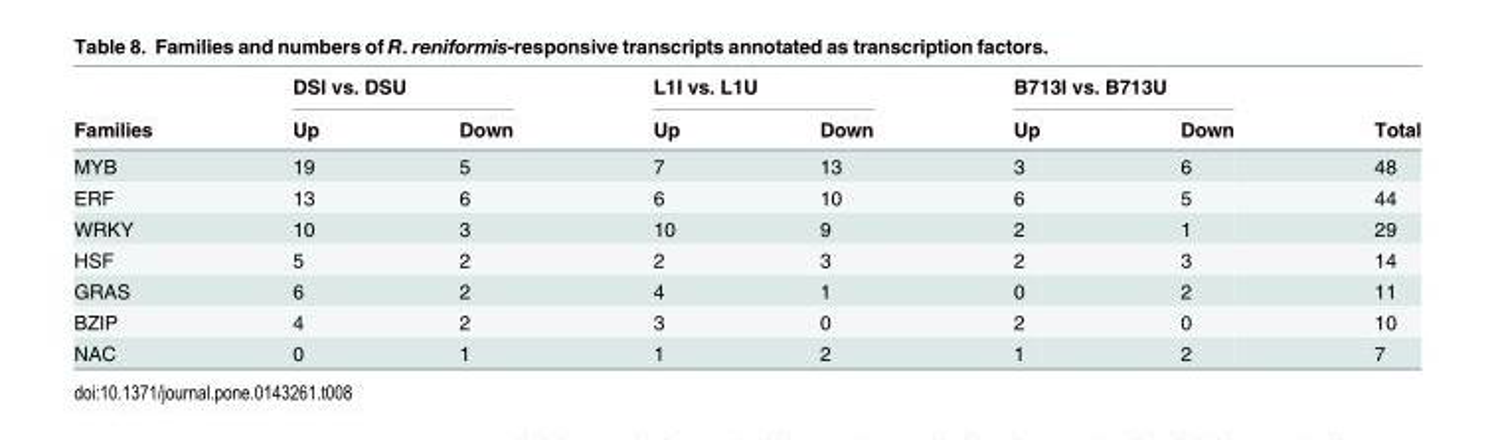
<table><thead><tr><td rowspan="2">Families</td><td colspan="2">DSI vs. DSU</td><td colspan="2">L1I vs. L1U</td><td colspan="2">B713I vs. B713U</td><td rowspan="2">Total</td></tr><tr><td>Up</td><td>Down</td><td>Up</td><td>Down</td><td>Up</td><td>Down</td></tr></thead><tbody><tr><td>MYB</td><td>19</td><td>5</td><td>7</td><td>13</td><td>3</td><td>6</td><td>48</td></tr><tr><td>ERF</td><td>13</td><td>6</td><td>6</td><td>10</td><td>6</td><td>5</td><td>44</td></tr><tr><td>WRKY</td><td>10</td><td>3</td><td>10</td><td>9</td><td>2</td><td>1</td><td>29</td></tr><tr><td>HSF</td><td>5</td><td>2</td><td>2</td><td>3</td><td>2</td><td>3</td><td>14</td></tr><tr><td>GRAS</td><td>6</td><td>2</td><td>4</td><td>1</td><td>0</td><td>2</td><td>11</td></tr><tr><td>BZIP</td><td>4</td><td>2</td><td>3</td><td>0</td><td>2</td><td>0</td><td>10</td></tr><tr><td>NAC</td><td>0</td><td>1</td><td>1</td><td>2</td><td>1</td><td>2</td><td>7</td></tr></tbody></table>